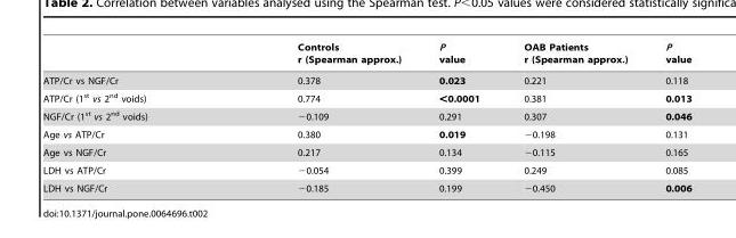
<table><thead><tr><td></td><td>Controls r (Spearman approx.)</td><td>P value</td><td>OAB Patients r (Spearman approx.)</td><td>P value</td></tr></thead><tbody><tr><td>ATP/Cr vs NGF/Cr</td><td>0.378</td><td>0.023</td><td>0.221</td><td>0.118</td></tr><tr><td>ATP/Cr (1<sup>st</sup> vs 2<sup>nd</sup> voids)</td><td>0.774</td><td>&lt;0.0001</td><td>0.381</td><td>0.013</td></tr><tr><td>NGF/Cr (1<sup>st</sup> vs 2<sup>nd</sup> voids)</td><td>−0.109</td><td>0.291</td><td>0.307</td><td>0.046</td></tr><tr><td>Age vs ATP/Cr</td><td>0.380</td><td>0.019</td><td>−0.198</td><td>0.131</td></tr><tr><td>Age vs NGF/Cr</td><td>0.217</td><td>0.134</td><td>−0.115</td><td>0.165</td></tr><tr><td>LDH vs ATP/Cr</td><td>−0.054</td><td>0.399</td><td>0.249</td><td>0.085</td></tr><tr><td>LDH vs NGF/Cr</td><td>−0.185</td><td>0.199</td><td>−0.450</td><td>0.006</td></tr></tbody></table>